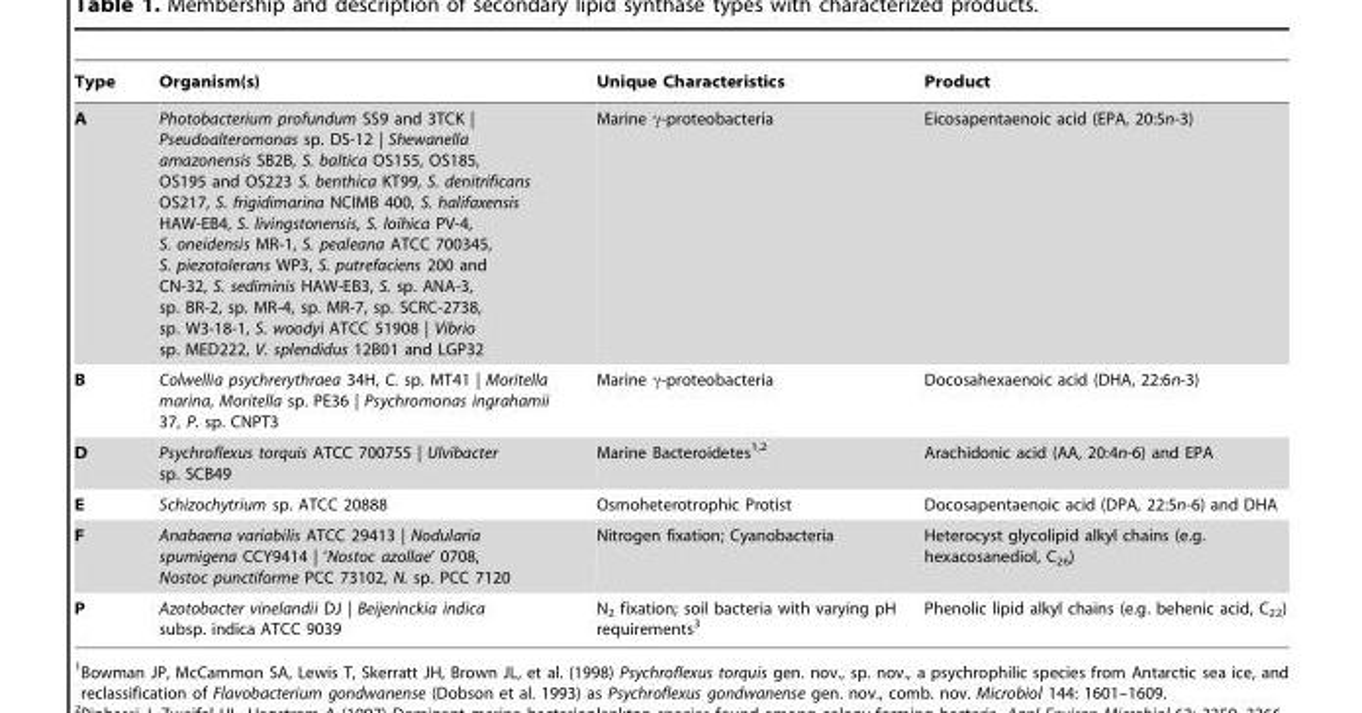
<table><thead><tr><td>Type</td><td>Organism(s)</td><td>Unique Characteristics</td><td>Product</td></tr></thead><tbody><tr><td>A</td><td>Photobacterium profundum SS9 and 3TCK | Pseudoalteromonas sp. DS-12 | Shewanella amazonensis SB2B, S. baltica OS155, OS185, OS195 and OS223 S. benthica KT99, S. denitrificans OS217, S. frigidimarina NCIMB 400, S. halifaxensis HAW-EB4, S. livingstonensis, S. loihica PV-4, S. oneidensis MR-1, S. pealeana ATCC 700345, S. piezotolerans WP3, S. putrefaciens 200 and CN-32, S. sediminis HAW-EB3, S. sp. ANA-3, sp. BR-2, sp. MR-4, sp. MR-7, sp. SCRC-2738, sp. W3-18-1, S. woodyi ATCC 51908 | Vibrio sp. MED222, V. splendidus 12B01 and LGP32</td><td>Marine γ-proteobacteria</td><td>Eicosapentaenoic acid (EPA, 20:5n-3)</td></tr><tr><td>B</td><td>Colwellia psychrerythraea 34H, C. sp. MT41 | Moritella marina, Moritella sp. PE36 | Psychromonas ingrahamii 37, P. sp. CNPT3</td><td>Marine γ-proteobacteria</td><td>Docosahexaenoic acid (DHA, 22:6n-3)</td></tr><tr><td>D</td><td>Psychroflexus torquis ATCC 700755 | Ulvibacter sp. SCB49</td><td>Marine Bacteroidetes<sup>1,</sup>2</td><td>Arachidonic acid (AA, 20:4n-6) and EPA</td></tr><tr><td>E</td><td>Schizochytrium sp. ATCC 20888</td><td>Osmoheterotrophic Protist</td><td>Docosapentaenoic acid (DPA, 22:5n-6) and DHA</td></tr><tr><td>F</td><td>Anabaena variabilis ATCC 29413 | Nodularia spumigena CCY9414 | ‘Nostoc azollae’ 0708, Nostoc punctiforme PCC 73102, N. sp. PCC 7120</td><td>Nitrogen fixation; Cyanobacteria</td><td>Heterocyst glycolipid alkyl chains (e.g. hexacosanediol, C<sub>26</sub>)</td></tr><tr><td>P</td><td>Azotobacter vinelandii DJ | Beijerinckia indica subsp. indica ATCC 9039</td><td>N<sub>2</sub> fixation; soil bacteria with varying pH requirements<sup>3</sup></td><td>Phenolic lipid alkyl chains (e.g. behenic acid, C<sub>22</sub>)</td></tr></tbody></table>